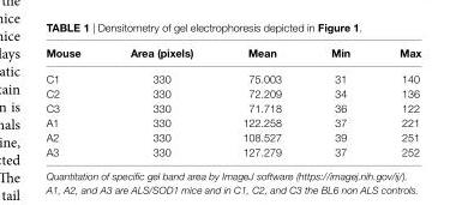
<table><thead><tr><td>Mouse</td><td>Area (pixels)</td><td>Mean</td><td>Min</td><td>Max</td></tr></thead><tbody><tr><td>C1</td><td>330</td><td>75.003</td><td>31</td><td>140</td></tr><tr><td>C2</td><td>330</td><td>72.209</td><td>34</td><td>136</td></tr><tr><td>C3</td><td>330</td><td>71.718</td><td>36</td><td>122</td></tr><tr><td>A1</td><td>330</td><td>122.258</td><td>37</td><td>221</td></tr><tr><td>A2</td><td>330</td><td>108.527</td><td>39</td><td>251</td></tr><tr><td>A3</td><td>330</td><td>127.279</td><td>37</td><td>252</td></tr></tbody></table>